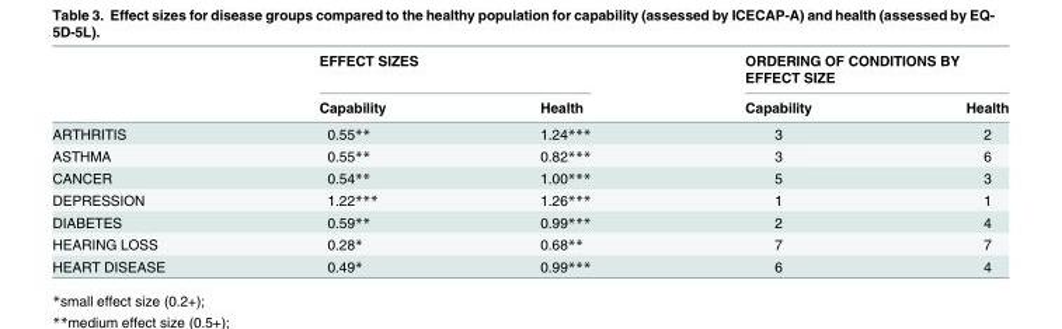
<table><thead><tr><td rowspan="2"></td><td colspan="2">EFFECT SIZES</td><td colspan="2">ORDERING OF CONDITIONS BY EFFECT SIZE</td></tr><tr><td>Capability</td><td>Health</td><td>Capability</td><td>Health</td></tr></thead><tbody><tr><td>ARTHRITIS</td><td>0.55**</td><td>1.24***</td><td>3</td><td>2</td></tr><tr><td>ASTHMA</td><td>0.55**</td><td>0.82***</td><td>3</td><td>6</td></tr><tr><td>CANCER</td><td>0.54**</td><td>1.00***</td><td>5</td><td>3</td></tr><tr><td>DEPRESSION</td><td>1.22***</td><td>1.26***</td><td>1</td><td>1</td></tr><tr><td>DIABETES</td><td>0.59**</td><td>0.99***</td><td>2</td><td>4</td></tr><tr><td>HEARING LOSS</td><td>0.28*</td><td>0.68**</td><td>7</td><td>7</td></tr><tr><td>HEART DISEASE</td><td>0.49*</td><td>0.99***</td><td>6</td><td>4</td></tr></tbody></table>